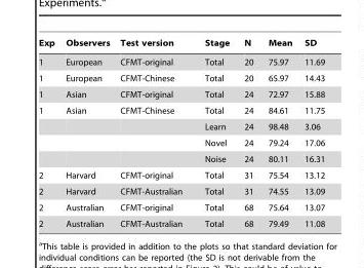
<table><thead><tr><td>Exp</td><td>Observers</td><td>Test version</td><td>Stage</td><td>N</td><td>Mean</td><td>SD</td></tr></thead><tbody><tr><td>1</td><td>European</td><td>CFMT-original</td><td>Total</td><td>20</td><td>75.97</td><td>11.69</td></tr><tr><td>1</td><td>European</td><td>CFMT-Chinese</td><td>Total</td><td>20</td><td>65.97</td><td>14.43</td></tr><tr><td>1</td><td>Asian</td><td>CFMT-original</td><td>Total</td><td>24</td><td>72.97</td><td>15.88</td></tr><tr><td rowspan="4">1</td><td>Asian</td><td>CFMT-Chinese</td><td>Total</td><td>24</td><td>84.61</td><td>11.75</td></tr><tr><td></td><td></td><td>Learn</td><td>24</td><td>98.48</td><td>3.06</td></tr><tr><td></td><td></td><td>Novel</td><td>24</td><td>79.24</td><td>17.06</td></tr><tr><td></td><td></td><td>Noise</td><td>24</td><td>80.11</td><td>16.31</td></tr><tr><td>2</td><td>Harvard</td><td>CFMT-original</td><td>Total</td><td>31</td><td>75.54</td><td>13.12</td></tr><tr><td>2</td><td>Harvard</td><td>CFMT-Australian</td><td>Total</td><td>31</td><td>74.55</td><td>13.09</td></tr><tr><td>2</td><td>Australian</td><td>CFMT-original</td><td>Total</td><td>68</td><td>75.64</td><td>13.07</td></tr><tr><td>2</td><td>Australian</td><td>CFMT-Australian</td><td>Total</td><td>68</td><td>79.49</td><td>11.08</td></tr></tbody></table>